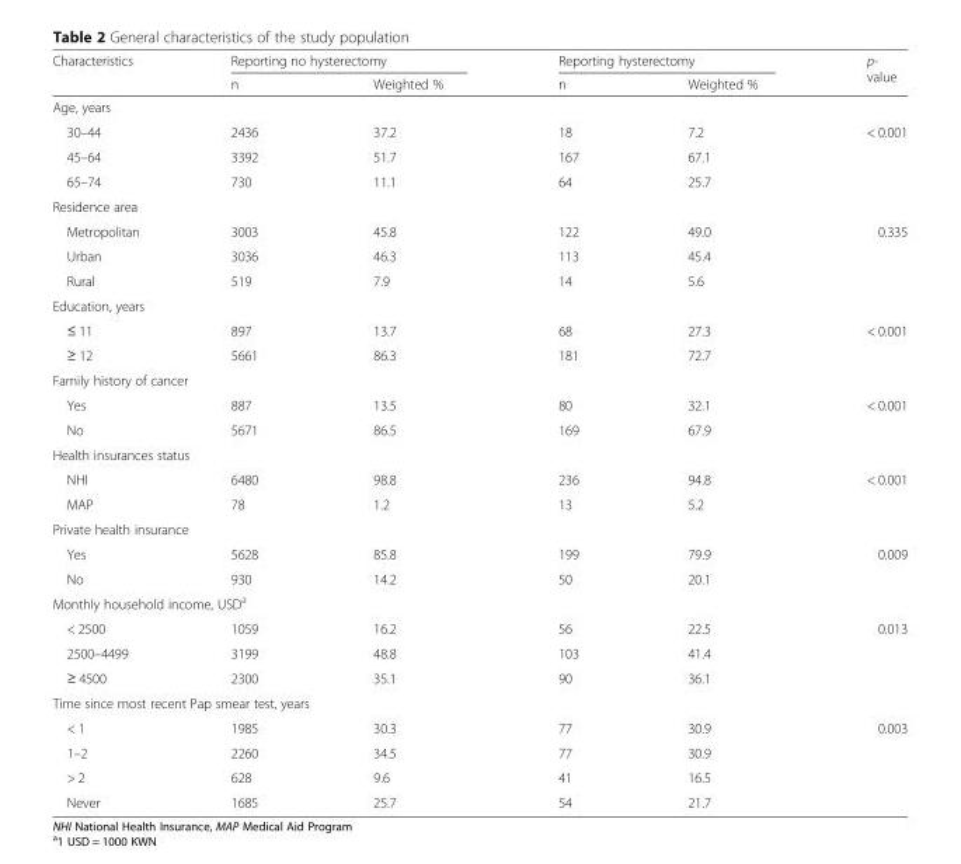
<table><thead><tr><td rowspan="2">Characteristics</td><td colspan="2">Reporting no hysterectomy</td><td colspan="2">Reporting hysterectomy</td><td rowspan="2">p- value</td></tr><tr><td>n</td><td>Weighted %</td><td>n</td><td>Weighted %</td></tr></thead><tbody><tr><td colspan="6">Age, years</td></tr><tr><td>30–44</td><td>2436</td><td>37.2</td><td>18</td><td>7.2</td><td rowspan="3">&lt; 0.001</td></tr><tr><td>45–64</td><td>3392</td><td>51.7</td><td>167</td><td>67.1</td></tr><tr><td>65–74</td><td>730</td><td>11.1</td><td>64</td><td>25.7</td></tr><tr><td colspan="6">Residence area</td></tr><tr><td>Metropolitan</td><td>3003</td><td>45.8</td><td>122</td><td>49.0</td><td rowspan="3">0.335</td></tr><tr><td>Urban</td><td>3036</td><td>46.3</td><td>113</td><td>45.4</td></tr><tr><td>Rural</td><td>519</td><td>7.9</td><td>14</td><td>5.6</td></tr><tr><td colspan="6">Education, years</td></tr><tr><td>≤ 11</td><td>897</td><td>13.7</td><td>68</td><td>27.3</td><td rowspan="2">&lt; 0.001</td></tr><tr><td>≥ 12</td><td>5661</td><td>86.3</td><td>181</td><td>72.7</td></tr><tr><td colspan="6">Family history of cancer</td></tr><tr><td>Yes</td><td>887</td><td>13.5</td><td>80</td><td>32.1</td><td rowspan="2">&lt; 0.001</td></tr><tr><td>No</td><td>5671</td><td>86.5</td><td>169</td><td>67.9</td></tr><tr><td colspan="6">Health insurances status</td></tr><tr><td>NHI</td><td>6480</td><td>98.8</td><td>236</td><td>94.8</td><td rowspan="2">&lt; 0.001</td></tr><tr><td>MAP</td><td>78</td><td>1.2</td><td>13</td><td>5.2</td></tr><tr><td colspan="6">Private health insurance</td></tr><tr><td>Yes</td><td>5628</td><td>85.8</td><td>199</td><td>79.9</td><td rowspan="2">0.009</td></tr><tr><td>No</td><td>930</td><td>14.2</td><td>50</td><td>20.1</td></tr><tr><td colspan="6">Monthly household income, USD<sup>a</sup></td></tr><tr><td>&lt; 2500</td><td>1059</td><td>16.2</td><td>56</td><td>22.5</td><td rowspan="3">0.013</td></tr><tr><td>2500–4499</td><td>3199</td><td>48.8</td><td>103</td><td>41.4</td></tr><tr><td>≥ 4500</td><td>2300</td><td>35.1</td><td>90</td><td>36.1</td></tr><tr><td colspan="6">Time since most recent Pap smear test, years</td></tr><tr><td>&lt; 1</td><td>1985</td><td>30.3</td><td>77</td><td>30.9</td><td rowspan="4">0.003</td></tr><tr><td>1–2</td><td>2260</td><td>34.5</td><td>77</td><td>30.9</td></tr><tr><td>&gt; 2</td><td>628</td><td>9.6</td><td>41</td><td>16.5</td></tr><tr><td>Never</td><td>1685</td><td>25.7</td><td>54</td><td>21.7</td></tr></tbody></table>